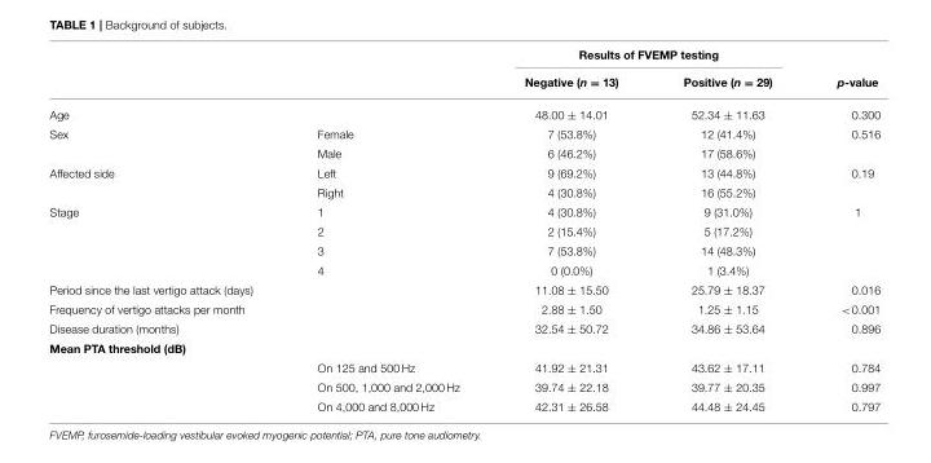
<table><thead><tr><td rowspan="2"></td><td rowspan="2"></td><td colspan="2">Results of FVEMP testing</td><td rowspan="2">p-value</td></tr><tr><td>Negative (n = 13)</td><td>Positive (n = 29)</td></tr></thead><tbody><tr><td>Age</td><td></td><td>48.00 ± 14.01</td><td>52.34 ± 11.63</td><td>0.300</td></tr><tr><td rowspan="2">Sex</td><td>Female</td><td>7 (53.8%)</td><td>12 (41.4%)</td><td>0.516</td></tr><tr><td>Male</td><td>6 (46.2%)</td><td>17 (58.6%)</td><td></td></tr><tr><td rowspan="2">Affected side</td><td>Left</td><td>9 (69.2%)</td><td>13 (44.8%)</td><td>0.19</td></tr><tr><td>Right</td><td>4 (30.8%)</td><td>16 (55.2%)</td><td></td></tr><tr><td rowspan="4">Stage</td><td>1</td><td>4 (30.8%)</td><td>9 (31.0%)</td><td>1</td></tr><tr><td>2</td><td>2 (15.4%)</td><td>5 (17.2%)</td><td></td></tr><tr><td>3</td><td>7 (53.8%)</td><td>14 (48.3%)</td><td></td></tr><tr><td>4</td><td>0 (0.0%)</td><td>1 (3.4%)</td><td></td></tr><tr><td>Period since the last vertigo attack (days)</td><td></td><td>11.08 ± 15.50</td><td>25.79 ± 18.37</td><td>0.016</td></tr><tr><td>Frequency of vertigo attacks per month</td><td></td><td>2.88 ± 1.50</td><td>1.25 ± 1.15</td><td>&lt;0.001</td></tr><tr><td>Disease duration (months)</td><td></td><td>32.54 ± 50.72</td><td>34.86 ± 53.64</td><td>0.896</td></tr><tr><td colspan="5">Mean PTA threshold (dB)</td></tr><tr><td></td><td>On 125 and 500 Hz</td><td>41.92 ± 21.31</td><td>43.62 ± 17.11</td><td>0.784</td></tr><tr><td></td><td>On 500, 1,000 and 2,000 Hz</td><td>39.74 ± 22.18</td><td>39.77 ± 20.35</td><td>0.997</td></tr><tr><td></td><td>On 4,000 and 8,000 Hz</td><td>42.31 ± 26.58</td><td>44.48 ± 24.45</td><td>0.797</td></tr></tbody></table>